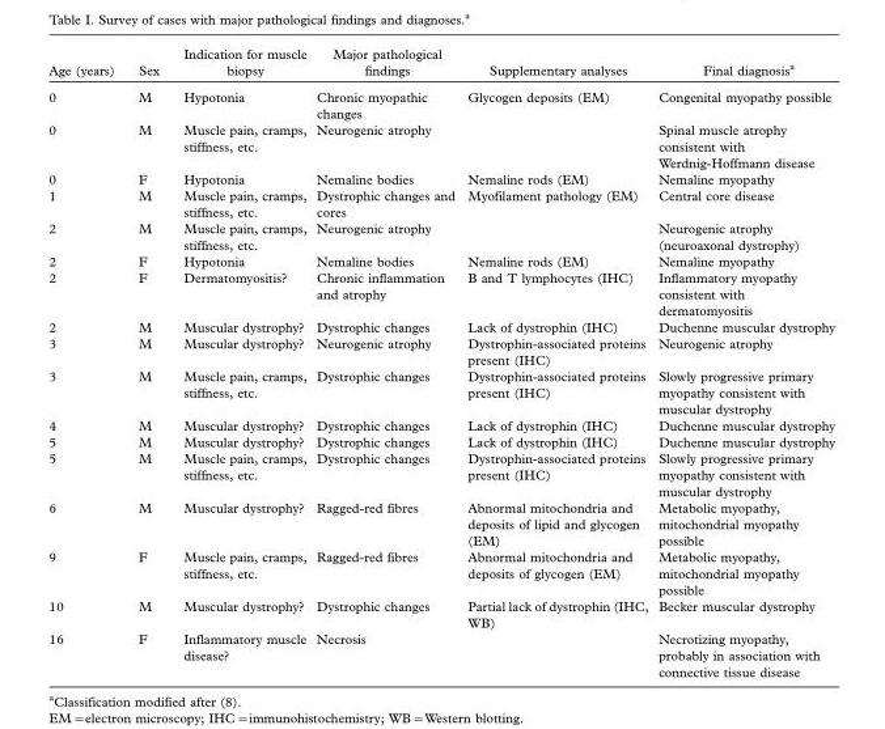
<table><thead><tr><td>Age (years)</td><td>Sex</td><td>Indication for muscle biopsy</td><td>Major pathological findings</td><td>Supplementary analyses</td><td>Final diagnosis<sup>a</sup></td></tr></thead><tbody><tr><td>0</td><td>M</td><td>Hypotonia</td><td>Chronic myopathic changes</td><td>Glycogen deposits (EM)</td><td>Congenital myopathy possible</td></tr><tr><td>0</td><td>M</td><td>Muscle pain, cramps, stiffness, etc.</td><td>Neurogenic atrophy</td><td></td><td>Spinal muscle atrophy consistent with Werdnig-Hoffmann disease</td></tr><tr><td>0</td><td>F</td><td>Hypotonia</td><td>Nemaline bodies</td><td>Nemaline rods (EM)</td><td>Nemaline myopathy</td></tr><tr><td>1</td><td>M</td><td>Muscle pain, cramps, stiffness, etc.</td><td>Dystrophic changes and cores</td><td>Myofilament pathology (EM)</td><td>Central core disease</td></tr><tr><td>2</td><td>M</td><td>Muscle pain, cramps, stiffness, etc.</td><td>Neurogenic atrophy</td><td></td><td>Neurogenic atrophy (neuroaxonal dystrophy)</td></tr><tr><td>2</td><td>F</td><td>Hypotonia</td><td>Nemaline bodies</td><td>Nemaline rods (EM)</td><td>Nemaline myopathy</td></tr><tr><td>2</td><td>F</td><td>Dermatomyositis?</td><td>Chronic inflammation and atrophy</td><td>B and T lymphocytes (IHC)</td><td>Inflammatory myopathy consistent with dermatomyositis</td></tr><tr><td>2</td><td>M</td><td>Muscular dystrophy?</td><td>Dystrophic changes</td><td>Lack of dystrophin (IHC)</td><td>Duchenne muscular dystrophy</td></tr><tr><td>3</td><td>M</td><td>Muscular dystrophy?</td><td>Neurogenic atrophy</td><td>Dystrophin-associated proteins present (IHC)</td><td>Neurogenic atrophy</td></tr><tr><td>3</td><td>M</td><td>Muscle pain, cramps, stiffness, etc.</td><td>Dystrophic changes</td><td>Dystrophin-associated proteins present (IHC)</td><td>Slowly progressive primary myopathy consistent with muscular dystrophy</td></tr><tr><td>4</td><td>M</td><td>Muscular dystrophy?</td><td>Dystrophic changes</td><td>Lack of dystrophin (IHC)</td><td>Duchenne muscular dystrophy</td></tr><tr><td>5</td><td>M</td><td>Muscular dystrophy?</td><td>Dystrophic changes</td><td>Lack of dystrophin (IHC)</td><td>Duchenne muscular dystrophy</td></tr><tr><td>5</td><td>M</td><td>Muscle pain, cramps, stiffness, etc.</td><td>Dystrophic changes</td><td>Dystrophin-associated proteins present (IHC)</td><td>Slowly progressive primary myopathy consistent with muscular dystrophy</td></tr><tr><td>6</td><td>M</td><td>Muscular dystrophy?</td><td>Ragged-red fibres</td><td>Abnormal mitochondria and deposits of lipid and glycogen (EM)</td><td>Metabolic myopathy, mitochondrial myopathy possible</td></tr><tr><td>9</td><td>F</td><td>Muscle pain, cramps, stiffness, etc.</td><td>Ragged-red fibres</td><td>Abnormal mitochondria and deposits of glycogen (EM)</td><td>Metabolic myopathy, mitochondrial myopathy possible</td></tr><tr><td>10</td><td>M</td><td>Muscular dystrophy?</td><td>Dystrophic changes</td><td>Partial lack of dystrophin (IHC, WB)</td><td>Becker muscular dystrophy</td></tr><tr><td>16</td><td>F</td><td>Inflammatory muscle disease?</td><td>Necrosis</td><td></td><td>Necrotizing myopathy, probably in association with connective tissue disease</td></tr></tbody></table>